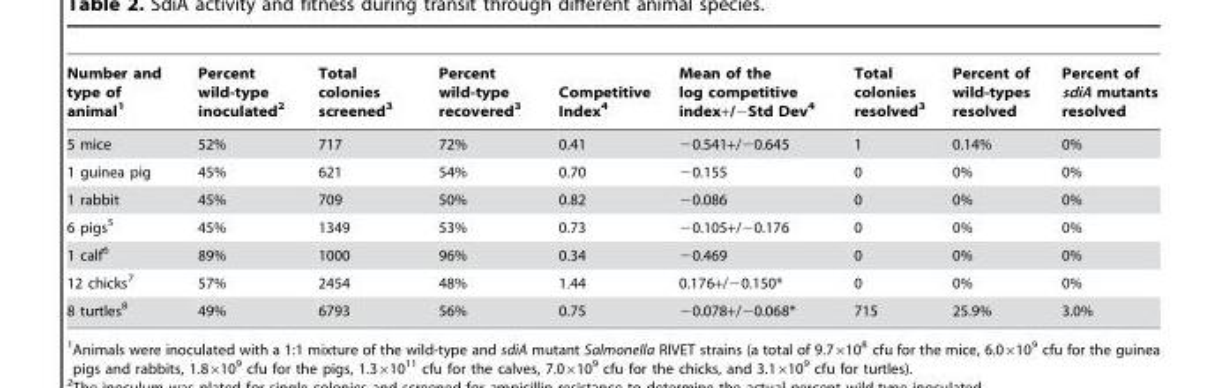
<table><thead><tr><td>Number and type of animal<sup>1</sup></td><td>Percent wild-type inoculated<sup>2</sup></td><td>Total colonies screened<sup>3</sup></td><td>Percent wild-type recovered<sup>3</sup></td><td>Competitive Index<sup>4</sup></td><td>Mean of the log competitive index+/−Std Dev<sup>4</sup></td><td>Total colonies resolved<sup>3</sup></td><td>Percent of wild-types resolved</td><td>Percent of sdiA mutants resolved</td></tr></thead><tbody><tr><td>5 mice</td><td>52%</td><td>717</td><td>72%</td><td>0.41</td><td>−0.541+/−0.645</td><td>1</td><td>0.14%</td><td>0%</td></tr><tr><td>1 guinea pig</td><td>45%</td><td>621</td><td>54%</td><td>0.70</td><td>−0.155</td><td>0</td><td>0%</td><td>0%</td></tr><tr><td>1 rabbit</td><td>45%</td><td>709</td><td>50%</td><td>0.82</td><td>−0.086</td><td>0</td><td>0%</td><td>0%</td></tr><tr><td>6 pigs<sup>5</sup></td><td>45%</td><td>1349</td><td>53%</td><td>0.73</td><td>−0.105+/−0.176</td><td>0</td><td>0%</td><td>0%</td></tr><tr><td>1 calf<sup>6</sup></td><td>89%</td><td>1000</td><td>96%</td><td>0.34</td><td>−0.469</td><td>0</td><td>0%</td><td>0%</td></tr><tr><td>12 chicks<sup>7</sup></td><td>57%</td><td>2454</td><td>48%</td><td>1.44</td><td>0.176+/−0.150*</td><td>0</td><td>0%</td><td>0%</td></tr><tr><td>8 turtles<sup>8</sup></td><td>49%</td><td>6793</td><td>56%</td><td>0.75</td><td>−0.078+/−0.068*</td><td>715</td><td>25.9%</td><td>3.0%</td></tr></tbody></table>